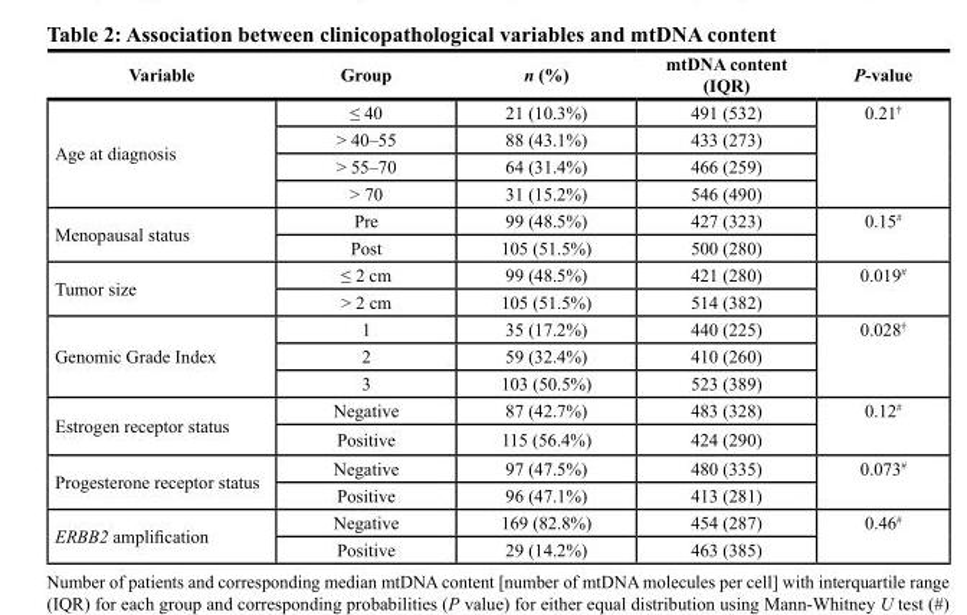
<table><thead><tr><td>Variable</td><td>Group</td><td>n (%)</td><td>mtDNA content (IQR)</td><td>P-value</td></tr></thead><tbody><tr><td rowspan="4">Age at diagnosis</td><td>≤ 40</td><td>21 (10.3%)</td><td>491 (532)</td><td rowspan="4">0.21<sup>†</sup></td></tr><tr><td>&gt; 40–55</td><td>88 (43.1%)</td><td>433 (273)</td></tr><tr><td>&gt; 55–70</td><td>64 (31.4%)</td><td>466 (259)</td></tr><tr><td>&gt; 70</td><td>31 (15.2%)</td><td>546 (490)</td></tr><tr><td rowspan="2">Menopausal status</td><td>Pre</td><td>99 (48.5%)</td><td>427 (323)</td><td rowspan="2">0.15<sup>#</sup></td></tr><tr><td>Post</td><td>105 (51.5%)</td><td>500 (280)</td></tr><tr><td rowspan="2">Tumor size</td><td>≤ 2 cm</td><td>99 (48.5%)</td><td>421 (280)</td><td rowspan="2">0.019<sup>#</sup></td></tr><tr><td>&gt; 2 cm</td><td>105 (51.5%)</td><td>514 (382)</td></tr><tr><td rowspan="3">Genomic Grade Index</td><td>1</td><td>35 (17.2%)</td><td>440 (225)</td><td rowspan="3">0.028<sup>†</sup></td></tr><tr><td>2</td><td>59 (32.4%)</td><td>410 (260)</td></tr><tr><td>3</td><td>103 (50.5%)</td><td>523 (389)</td></tr><tr><td rowspan="2">Estrogen receptor status</td><td>Negative</td><td>87 (42.7%)</td><td>483 (328)</td><td rowspan="2">0.12<sup>#</sup></td></tr><tr><td>Positive</td><td>115 (56.4%)</td><td>424 (290)</td></tr><tr><td rowspan="2">Progesterone receptor status</td><td>Negative</td><td>97 (47.5%)</td><td>480 (335)</td><td rowspan="2">0.073<sup>#</sup></td></tr><tr><td>Positive</td><td>96 (47.1%)</td><td>413 (281)</td></tr><tr><td rowspan="2">ERBB2 amplification</td><td>Negative</td><td>169 (82.8%)</td><td>454 (287)</td><td rowspan="2">0.46<sup>#</sup></td></tr><tr><td>Positive</td><td>29 (14.2%)</td><td>463 (385)</td></tr></tbody></table>